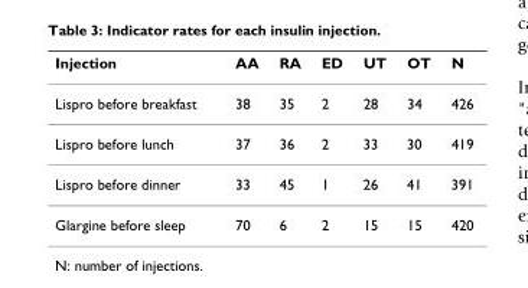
<table><thead><tr><td>Injection</td><td>AA</td><td>RA</td><td>ED</td><td>UT</td><td>OT</td><td>N</td></tr></thead><tbody><tr><td>Lispro before breakfast</td><td>38</td><td>35</td><td>2</td><td>28</td><td>34</td><td>426</td></tr><tr><td>Lispro before lunch</td><td>37</td><td>36</td><td>2</td><td>33</td><td>30</td><td>419</td></tr><tr><td>Lispro before dinner</td><td>33</td><td>45</td><td>1</td><td>26</td><td>41</td><td>391</td></tr><tr><td>Glargine before sleep</td><td>70</td><td>6</td><td>2</td><td>15</td><td>15</td><td>420</td></tr></tbody></table>